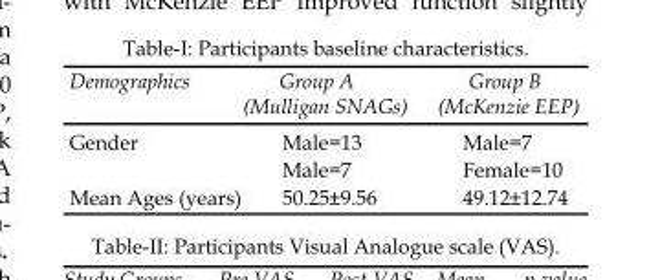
<table><thead><tr><td>Demographics</td><td>Group A (Mulligan SNAGs)</td><td>Group B (McKenzie EEP)</td></tr></thead><tbody><tr><td rowspan="2">Gender</td><td>Male=13</td><td>Male=7</td></tr><tr><td>Male=7</td><td>Female=10</td></tr><tr><td>Mean Ages (years)</td><td>50.25±9.56</td><td>49.12±12.74</td></tr></tbody></table>